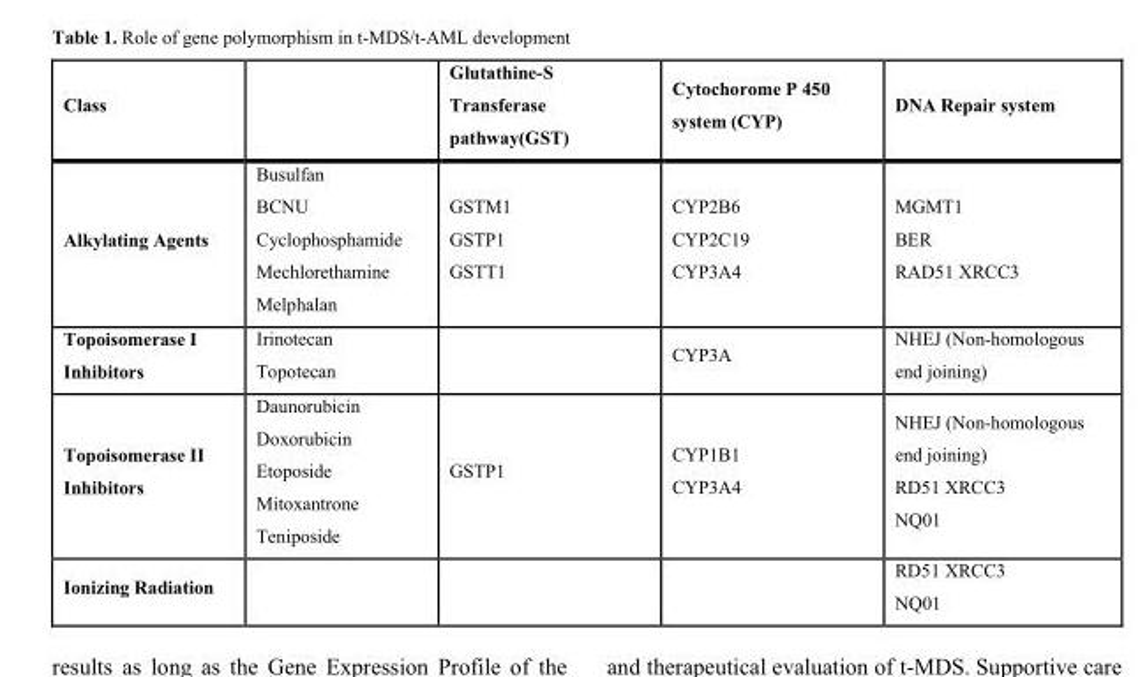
<table><thead><tr><td>Class</td><td></td><td>Glutathine-S Transferase pathway(GST)</td><td>Cytochorome P 450 system (CYP)</td><td>DNA Repair system</td></tr></thead><tbody><tr><td>Alkylating Agents</td><td>Busulfan BCNU Cyclophosphamide Mechlorethamine Melphalan</td><td>GSTM1 GSTP1 GSTT1</td><td>CYP2B6 CYP2C19 CYP3A4</td><td>MGMT1 BER RAD51 XRCC3</td></tr><tr><td>Topoisomerase I Inhibitors</td><td>Irinotecan Topotecan</td><td></td><td>CYP3A</td><td>NHEJ (Non-homologous end joining)</td></tr><tr><td>Topoisomerase II Inhibitors</td><td>Daunorubicin Doxorubicin Etoposide Mitoxantrone Teniposide</td><td>GSTP1</td><td>CYP1B1 CYP3A4</td><td>NHEJ (Non-homologous end joining) RD51 XRCC3 NQ01</td></tr><tr><td>Ionizing Radiation</td><td></td><td></td><td></td><td>RD51 XRCC3 NQ01</td></tr></tbody></table>